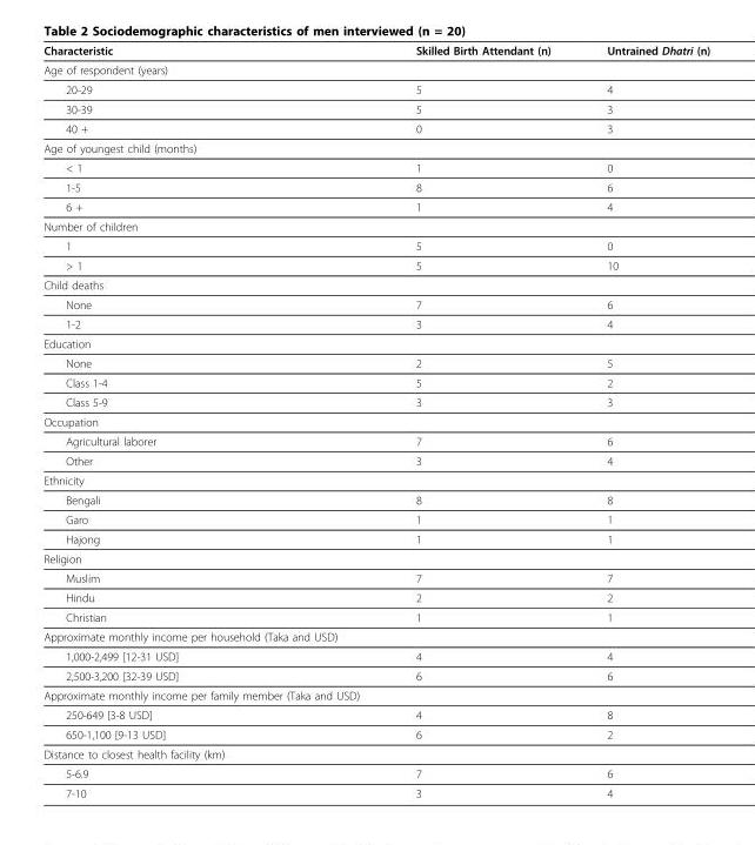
<table><thead><tr><td>Characteristic</td><td>Skilled Birth Attendant (n)</td><td>Untrained Dhatri (n)</td></tr></thead><tbody><tr><td colspan="3">Age of respondent (years)</td></tr><tr><td>20-29</td><td>5</td><td>4</td></tr><tr><td>30-39</td><td>5</td><td>3</td></tr><tr><td>40 +</td><td>0</td><td>3</td></tr><tr><td colspan="3">Age of youngest child (months)</td></tr><tr><td>&lt; 1</td><td>1</td><td>0</td></tr><tr><td>1-5</td><td>8</td><td>6</td></tr><tr><td>6 +</td><td>1</td><td>4</td></tr><tr><td colspan="3">Number of children</td></tr><tr><td>1</td><td>5</td><td>0</td></tr><tr><td>&gt; 1</td><td>5</td><td>10</td></tr><tr><td colspan="3">Child deaths</td></tr><tr><td>None</td><td>7</td><td>6</td></tr><tr><td>1-2</td><td>3</td><td>4</td></tr><tr><td colspan="3">Education</td></tr><tr><td>None</td><td>2</td><td>5</td></tr><tr><td>Class 1-4</td><td>5</td><td>2</td></tr><tr><td>Class 5-9</td><td>3</td><td>3</td></tr><tr><td colspan="3">Occupation</td></tr><tr><td>Agricultural laborer</td><td>7</td><td>6</td></tr><tr><td>Other</td><td>3</td><td>4</td></tr><tr><td colspan="3">Ethnicity</td></tr><tr><td>Bengali</td><td>8</td><td>8</td></tr><tr><td>Garo</td><td>1</td><td>1</td></tr><tr><td>Hajong</td><td>1</td><td>1</td></tr><tr><td colspan="3">Religion</td></tr><tr><td>Muslim</td><td>7</td><td>7</td></tr><tr><td>Hindu</td><td>2</td><td>2</td></tr><tr><td>Christian</td><td>1</td><td>1</td></tr><tr><td colspan="3">Approximate monthly income per household (Taka and USD)</td></tr><tr><td>1,000-2,499 [12-31 USD]</td><td>4</td><td>4</td></tr><tr><td>2,500-3,200 [32-39 USD]</td><td>6</td><td>6</td></tr><tr><td colspan="3">Approximate monthly income per family member (Taka and USD)</td></tr><tr><td>250-649 [3-8 USD]</td><td>4</td><td>8</td></tr><tr><td>650-1,100 [9-13 USD]</td><td>6</td><td>2</td></tr><tr><td colspan="3">Distance to closest health facility (km)</td></tr><tr><td>5-6.9</td><td>7</td><td>6</td></tr><tr><td>7-10</td><td>3</td><td>4</td></tr></tbody></table>